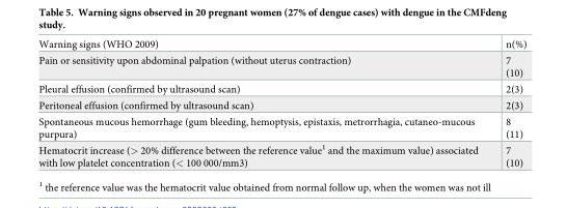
<table><tbody><tr><td>Warning signs (WHO 2009)</td><td>n(%)</td></tr><tr><td>Pain or sensitivity upon abdominal palpation (without uterus contraction)</td><td>7 (10)</td></tr><tr><td>Pleural effusion (confirmed by ultrasound scan)</td><td>2(3)</td></tr><tr><td>Peritoneal effusion (confirmed by ultrasound scan)</td><td>2(3)</td></tr><tr><td>Spontaneous mucous hemorrhage (gum bleeding, hemoptysis, epistaxis, metrorrhagia, cutaneo-mucous purpura)</td><td>8 (11)</td></tr><tr><td>Hematocrit increase (&gt; 20% difference between the reference value<sup>1</sup> and the maximum value) associated with low platelet concentration (&lt; 100 000/mm3)</td><td>7 (10)</td></tr></tbody></table>